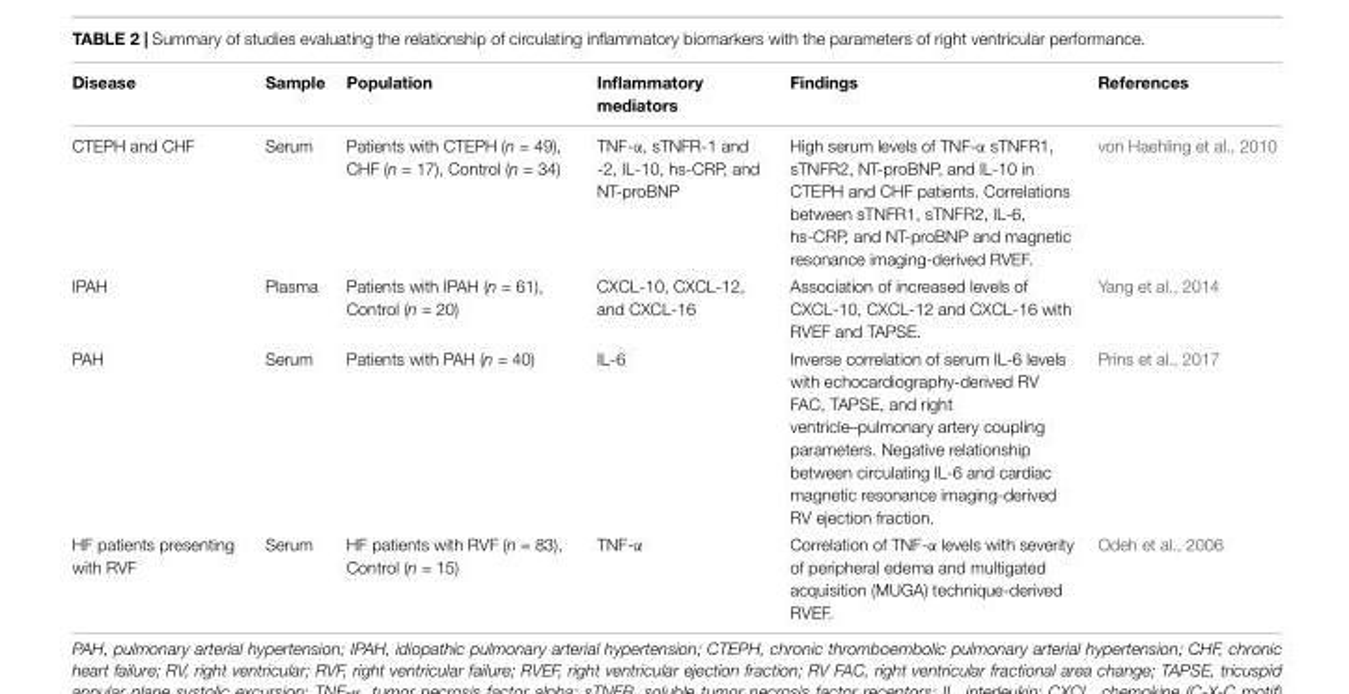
<table><thead><tr><td>Disease</td><td>Sample</td><td>Population</td><td>Inflammatory mediators</td><td>Findings</td><td>References</td></tr></thead><tbody><tr><td>CTEPH and CHF</td><td>Serum</td><td>Patients with CTEPH (n = 49), CHF (n = 17), Control (n = 34)</td><td>TNF-α, sTNFR-1 and -2, IL-10, hs-CRP, and NT-proBNP</td><td>High serum levels of TNF-α sTNFR1, sTNFR2, NT-proBNP, and IL-10 in CTEPH and CHF patients. Correlations between sTNFR1, sTNFR2, IL-6, hs-CRP, and NT-proBNP and magnetic resonance imaging-derived RVEF.</td><td>von Haehling et al., 2010</td></tr><tr><td>IPAH</td><td>Plasma</td><td>Patients with IPAH (n = 61), Control (n = 20)</td><td>CXCL-10, CXCL-12, and CXCL-16</td><td>Association of increased levels of CXCL-10, CXCL-12 and CXCL-16 with RVEF and TAPSE.</td><td>Yang et al., 2014</td></tr><tr><td>PAH</td><td>Serum</td><td>Patients with PAH (n = 40)</td><td>IL-6</td><td>Inverse correlation of serum IL-6 levels with echocardiography-derived RV FAC, TAPSE, and right ventricle–pulmonary artery coupling parameters. Negative relationship between circulating IL-6 and cardiac magnetic resonance imaging-derived RV ejection fraction.</td><td>Prins et al., 2017</td></tr><tr><td>HF patients presenting with RVF</td><td>Serum</td><td>HF patients with RVF (n = 83), Control (n = 15)</td><td>TNF-α</td><td>Correlation of TNF-α levels with severity of peripheral edema and multigated acquisition (MUGA) technique-derived RVEF.</td><td>Odeh et al., 2006</td></tr></tbody></table>